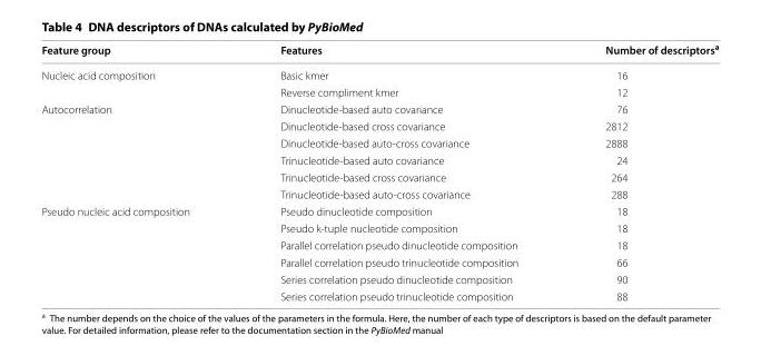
<table><thead><tr><td>Feature group</td><td>Features</td><td>Number of descriptors<sup>a</sup></td></tr></thead><tbody><tr><td rowspan="2">Nucleic acid composition</td><td>Basic kmer</td><td>16</td></tr><tr><td>Reverse compliment kmer</td><td>12</td></tr><tr><td rowspan="6">Autocorrelation</td><td>Dinucleotide‑based auto covariance</td><td>76</td></tr><tr><td>Dinucleotide‑based cross covariance</td><td>2812</td></tr><tr><td>Dinucleotide‑based auto‑cross covariance</td><td>2888</td></tr><tr><td>Trinucleotide‑based auto covariance</td><td>24</td></tr><tr><td>Trinucleotide‑based cross covariance</td><td>264</td></tr><tr><td>Trinucleotide‑based auto‑cross covariance</td><td>288</td></tr><tr><td rowspan="6">Pseudo nucleic acid composition</td><td>Pseudo dinucleotide composition</td><td>18</td></tr><tr><td>Pseudo k‑tuple nucleotide composition</td><td>18</td></tr><tr><td>Parallel correlation pseudo dinucleotide composition</td><td>18</td></tr><tr><td>Parallel correlation pseudo trinucleotide composition</td><td>66</td></tr><tr><td>Series correlation pseudo dinucleotide composition</td><td>90</td></tr><tr><td>Series correlation pseudo trinucleotide composition</td><td>88</td></tr></tbody></table>